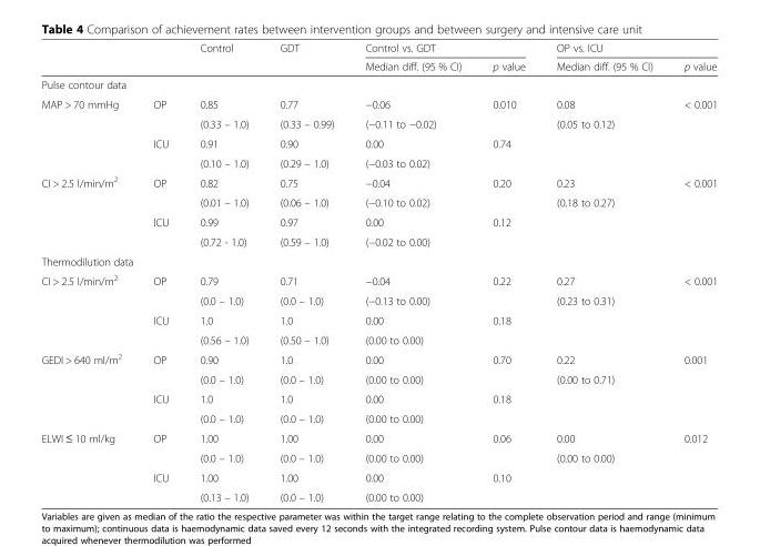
<table><thead><tr><td rowspan="2"></td><td rowspan="2"></td><td rowspan="2">Control</td><td rowspan="2">GDT</td><td colspan="2">Control vs. GDT</td><td colspan="2">OP vs. ICU</td></tr><tr><td>Median diff. (95 % CI)</td><td>p value</td><td>Median diff. (95 % CI)</td><td>p value</td></tr></thead><tbody><tr><td colspan="8">Pulse contour data</td></tr><tr><td rowspan="4">MAP &gt; 70 mmHg</td><td rowspan="2">OP</td><td>0.85</td><td>0.77</td><td>−0.06</td><td rowspan="2">0.010</td><td>0.08</td><td rowspan="4">&lt; 0.001</td></tr><tr><td>(0.33 – 1.0)</td><td>(0.33 – 0.99)</td><td>(−0.11 to −0.02)</td><td>(0.05 to 0.12)</td></tr><tr><td rowspan="2">ICU</td><td>0.91</td><td>0.90</td><td>0.00</td><td rowspan="2">0.74</td><td rowspan="2"></td></tr><tr><td>(0.10 – 1.0)</td><td>(0.29 – 1.0)</td><td>(−0.03 to 0.02)</td></tr><tr><td rowspan="4">CI &gt; 2.5 l/min/m<sup>2</sup></td><td rowspan="2">OP</td><td>0.82</td><td>0.75</td><td>−0.04</td><td rowspan="2">0.20</td><td>0.23</td><td rowspan="4">&lt; 0.001</td></tr><tr><td>(0.01 – 1.0)</td><td>(0.06 – 1.0)</td><td>(−0.10 to 0.02)</td><td>(0.18 to 0.27)</td></tr><tr><td rowspan="2">ICU</td><td>0.99</td><td>0.97</td><td>0.00</td><td rowspan="2">0.12</td><td rowspan="2"></td></tr><tr><td>(0.72 - 1.0)</td><td>(0.59 – 1.0)</td><td>(−0.02 to 0.00)</td></tr><tr><td colspan="8">Thermodilution data</td></tr><tr><td rowspan="4">CI &gt; 2.5 l/min/m<sup>2</sup></td><td rowspan="2">OP</td><td>0.79</td><td>0.71</td><td>−0.04</td><td rowspan="2">0.22</td><td>0.27</td><td rowspan="4">&lt; 0.001</td></tr><tr><td>(0.0 – 1.0)</td><td>(0.0 – 1.0)</td><td>(−0.13 to 0.00)</td><td>(0.23 to 0.31)</td></tr><tr><td rowspan="2">ICU</td><td>1.0</td><td>1.0</td><td>0.00</td><td rowspan="2">0.18</td><td rowspan="2"></td></tr><tr><td>(0.56 – 1.0)</td><td>(0.50 – 1.0)</td><td>(0.00 to 0.00)</td></tr><tr><td rowspan="4">GEDI &gt; 640 ml/m<sup>2</sup></td><td rowspan="2">OP</td><td>0.90</td><td>1.0</td><td>0.00</td><td rowspan="2">0.70</td><td>0.22</td><td rowspan="4">0.001</td></tr><tr><td>(0.0 – 1.0)</td><td>(0.0 – 1.0)</td><td>(0.00 to 0.00)</td><td>(0.00 to 0.71)</td></tr><tr><td rowspan="2">ICU</td><td>1.0</td><td>1.0</td><td>0.00</td><td rowspan="2">0.18</td><td rowspan="2"></td></tr><tr><td>(0.0 – 1.0)</td><td>(0.0 – 1.0)</td><td>(0.00 to 0.00)</td></tr><tr><td rowspan="4">ELWI ≤ 10 ml/kg</td><td rowspan="2">OP</td><td>1.00</td><td>1.00</td><td>0.00</td><td rowspan="2">0.06</td><td>0.00</td><td rowspan="4">0.012</td></tr><tr><td>(0.0 – 1.0)</td><td>(0.0 – 1.0)</td><td>(0.00 to 0.00)</td><td>(0.00 to 0.00)</td></tr><tr><td rowspan="2">ICU</td><td>1.00</td><td>1.00</td><td>0.00</td><td rowspan="2">0.10</td><td rowspan="2"></td></tr><tr><td>(0.13 – 1.0)</td><td>(0.0 – 1.0)</td><td>(0.00 to 0.00)</td></tr></tbody></table>